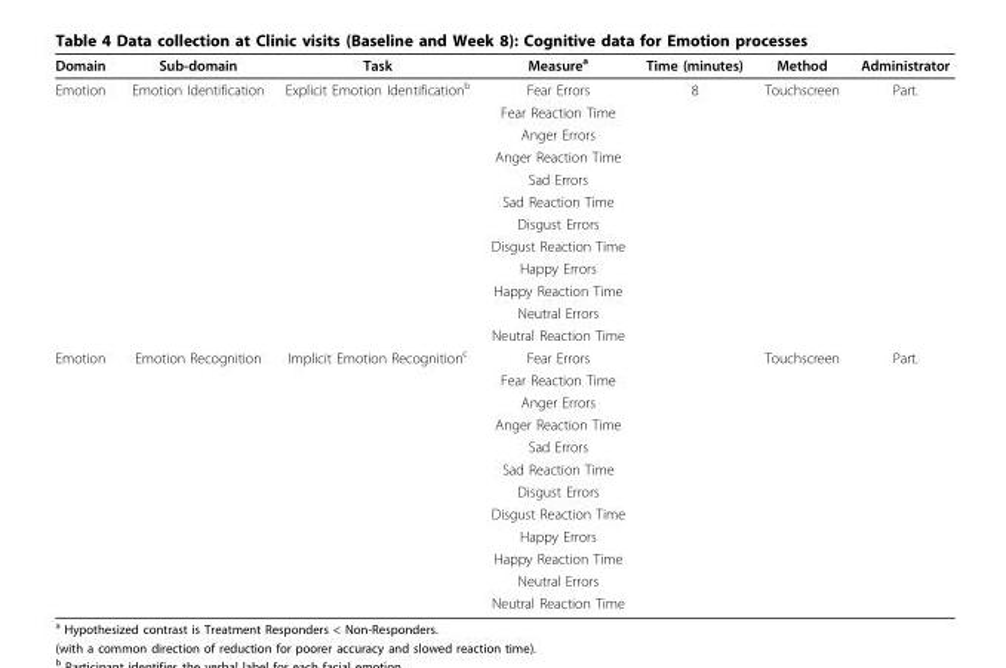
<table><thead><tr><td>Domain</td><td>Sub-domain</td><td>Task</td><td>Measure<sup>a</sup></td><td>Time (minutes)</td><td>Method</td><td>Administrator</td></tr></thead><tbody><tr><td rowspan="12">Emotion</td><td>Emotion Identification</td><td>Explicit Emotion Identification<sup>b</sup></td><td>Fear Errors</td><td>8</td><td>Touchscreen</td><td>Part.</td></tr><tr><td></td><td></td><td>Fear Reaction Time</td><td></td><td></td><td></td></tr><tr><td></td><td></td><td>Anger Errors</td><td></td><td></td><td></td></tr><tr><td></td><td></td><td>Anger Reaction Time</td><td></td><td></td><td></td></tr><tr><td></td><td></td><td>Sad Errors</td><td></td><td></td><td></td></tr><tr><td></td><td></td><td>Sad Reaction Time</td><td></td><td></td><td></td></tr><tr><td></td><td></td><td>Disgust Errors</td><td></td><td></td><td></td></tr><tr><td></td><td></td><td>Disgust Reaction Time</td><td></td><td></td><td></td></tr><tr><td></td><td></td><td>Happy Errors</td><td></td><td></td><td></td></tr><tr><td></td><td></td><td>Happy Reaction Time</td><td></td><td></td><td></td></tr><tr><td></td><td></td><td>Neutral Errors</td><td></td><td></td><td></td></tr><tr><td></td><td></td><td>Neutral Reaction Time</td><td></td><td></td><td></td></tr><tr><td rowspan="12">Emotion</td><td>Emotion Recognition</td><td>Implicit Emotion Recognition<sup>c</sup></td><td>Fear Errors</td><td></td><td>Touchscreen</td><td>Part.</td></tr><tr><td></td><td></td><td>Fear Reaction Time</td><td></td><td></td><td></td></tr><tr><td></td><td></td><td>Anger Errors</td><td></td><td></td><td></td></tr><tr><td></td><td></td><td>Anger Reaction Time</td><td></td><td></td><td></td></tr><tr><td></td><td></td><td>Sad Errors</td><td></td><td></td><td></td></tr><tr><td></td><td></td><td>Sad Reaction Time</td><td></td><td></td><td></td></tr><tr><td></td><td></td><td>Disgust Errors</td><td></td><td></td><td></td></tr><tr><td></td><td></td><td>Disgust Reaction Time</td><td></td><td></td><td></td></tr><tr><td></td><td></td><td>Happy Errors</td><td></td><td></td><td></td></tr><tr><td></td><td></td><td>Happy Reaction Time</td><td></td><td></td><td></td></tr><tr><td></td><td></td><td>Neutral Errors</td><td></td><td></td><td></td></tr><tr><td></td><td></td><td>Neutral Reaction Time</td><td></td><td></td><td></td></tr></tbody></table>